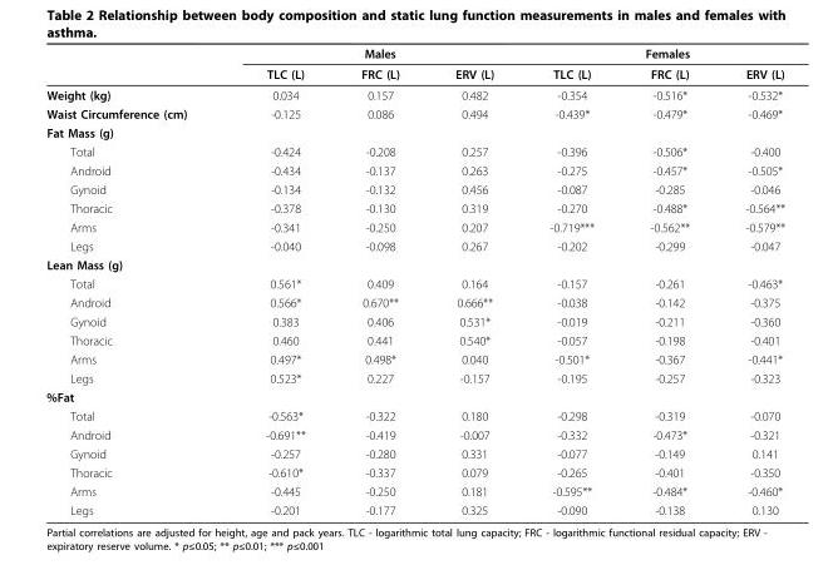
<table><thead><tr><td rowspan="2"></td><td colspan="3">Males</td><td colspan="3">Females</td></tr><tr><td>TLC (L)</td><td>FRC (L)</td><td>ERV (L)</td><td>TLC (L)</td><td>FRC (L)</td><td>ERV (L)</td></tr></thead><tbody><tr><td>Weight (kg)</td><td>0.034</td><td>0.157</td><td>0.482</td><td>-0.354</td><td>-0.516*</td><td>-0.532*</td></tr><tr><td>Waist Circumference (cm)</td><td>-0.125</td><td>0.086</td><td>0.494</td><td>-0.439*</td><td>-0.479*</td><td>-0.469*</td></tr><tr><td colspan="7">Fat Mass (g)</td></tr><tr><td>Total</td><td>-0.424</td><td>-0.208</td><td>0.257</td><td>-0.396</td><td>-0.506*</td><td>-0.400</td></tr><tr><td>Android</td><td>-0.434</td><td>-0.137</td><td>0.263</td><td>-0.275</td><td>-0.457*</td><td>-0.505*</td></tr><tr><td>Gynoid</td><td>-0.134</td><td>-0.132</td><td>0.456</td><td>-0.087</td><td>-0.285</td><td>-0.046</td></tr><tr><td>Thoracic</td><td>-0.378</td><td>-0.130</td><td>0.319</td><td>-0.270</td><td>-0.488*</td><td>-0.564**</td></tr><tr><td>Arms</td><td>-0.341</td><td>-0.250</td><td>0.207</td><td>-0.719***</td><td>-0.562**</td><td>-0.579**</td></tr><tr><td>Legs</td><td>-0.040</td><td>-0.098</td><td>0.267</td><td>-0.202</td><td>-0.299</td><td>-0.047</td></tr><tr><td colspan="7">Lean Mass (g)</td></tr><tr><td>Total</td><td>0.561*</td><td>0.409</td><td>0.164</td><td>-0.157</td><td>-0.261</td><td>-0.463*</td></tr><tr><td>Android</td><td>0.566*</td><td>0.670**</td><td>0.666**</td><td>-0.038</td><td>-0.142</td><td>-0.375</td></tr><tr><td>Gynoid</td><td>0.383</td><td>0.406</td><td>0.531*</td><td>-0.019</td><td>-0.211</td><td>-0.360</td></tr><tr><td>Thoracic</td><td>0.460</td><td>0.441</td><td>0.540*</td><td>-0.057</td><td>-0.198</td><td>-0.401</td></tr><tr><td>Arms</td><td>0.497*</td><td>0.498*</td><td>0.040</td><td>-0.501*</td><td>-0.367</td><td>-0.441*</td></tr><tr><td>Legs</td><td>0.523*</td><td>0.227</td><td>-0.157</td><td>-0.195</td><td>-0.257</td><td>-0.323</td></tr><tr><td colspan="7">%Fat</td></tr><tr><td>Total</td><td>-0.563*</td><td>-0.322</td><td>0.180</td><td>-0.298</td><td>-0.319</td><td>-0.070</td></tr><tr><td>Android</td><td>-0.691**</td><td>-0.419</td><td>-0.007</td><td>-0.332</td><td>-0.473*</td><td>-0.321</td></tr><tr><td>Gynoid</td><td>-0.257</td><td>-0.280</td><td>0.331</td><td>-0.077</td><td>-0.149</td><td>0.141</td></tr><tr><td>Thoracic</td><td>-0.610*</td><td>-0.337</td><td>0.079</td><td>-0.265</td><td>-0.401</td><td>-0.350</td></tr><tr><td>Arms</td><td>-0.445</td><td>-0.250</td><td>0.181</td><td>-0.595**</td><td>-0.484*</td><td>-0.460*</td></tr><tr><td>Legs</td><td>-0.201</td><td>-0.177</td><td>0.325</td><td>-0.090</td><td>-0.138</td><td>0.130</td></tr></tbody></table>